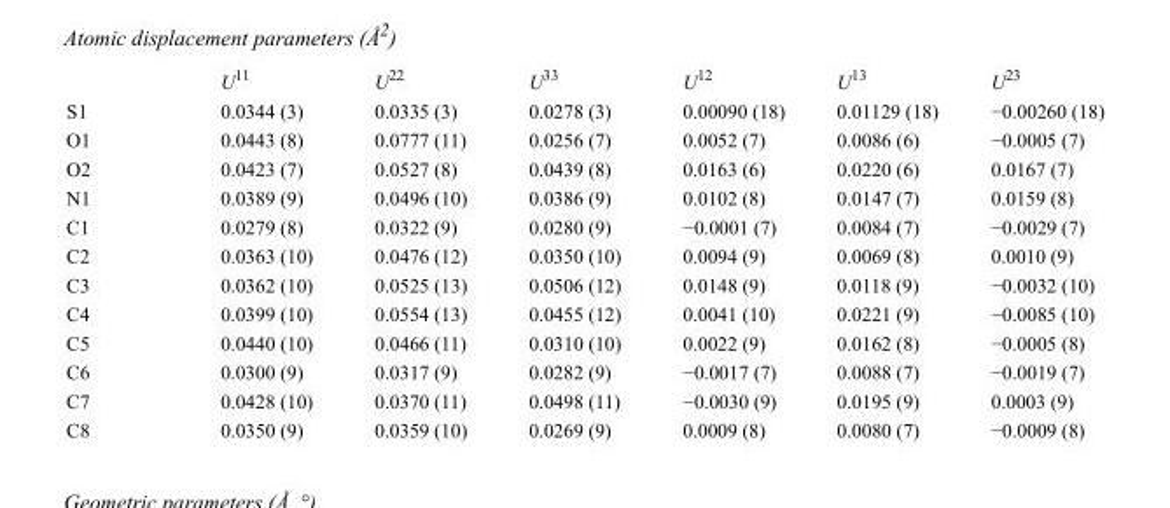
<table><thead><tr><td></td><td>U<sup>11</sup></td><td>U<sup>22</sup></td><td>U<sup>33</sup></td><td>U<sup>12</sup></td><td>U<sup>13</sup></td><td>U<sup>23</sup></td></tr></thead><tbody><tr><td>S1</td><td>0.0344 (3)</td><td>0.0335 (3)</td><td>0.0278 (3)</td><td>0.00090 (18)</td><td>0.01129 (18)</td><td>−0.00260 (18)</td></tr><tr><td>O1</td><td>0.0443 (8)</td><td>0.0777 (11)</td><td>0.0256 (7)</td><td>0.0052 (7)</td><td>0.0086 (6)</td><td>−0.0005 (7)</td></tr><tr><td>O2</td><td>0.0423 (7)</td><td>0.0527 (8)</td><td>0.0439 (8)</td><td>0.0163 (6)</td><td>0.0220 (6)</td><td>0.0167 (7)</td></tr><tr><td>N1</td><td>0.0389 (9)</td><td>0.0496 (10)</td><td>0.0386 (9)</td><td>0.0102 (8)</td><td>0.0147 (7)</td><td>0.0159 (8)</td></tr><tr><td>C1</td><td>0.0279 (8)</td><td>0.0322 (9)</td><td>0.0280 (9)</td><td>−0.0001 (7)</td><td>0.0084 (7)</td><td>−0.0029 (7)</td></tr><tr><td>C2</td><td>0.0363 (10)</td><td>0.0476 (12)</td><td>0.0350 (10)</td><td>0.0094 (9)</td><td>0.0069 (8)</td><td>0.0010 (9)</td></tr><tr><td>C3</td><td>0.0362 (10)</td><td>0.0525 (13)</td><td>0.0506 (12)</td><td>0.0148 (9)</td><td>0.0118 (9)</td><td>−0.0032 (10)</td></tr><tr><td>C4</td><td>0.0399 (10)</td><td>0.0554 (13)</td><td>0.0455 (12)</td><td>0.0041 (10)</td><td>0.0221 (9)</td><td>−0.0085 (10)</td></tr><tr><td>C5</td><td>0.0440 (10)</td><td>0.0466 (11)</td><td>0.0310 (10)</td><td>0.0022 (9)</td><td>0.0162 (8)</td><td>−0.0005 (8)</td></tr><tr><td>C6</td><td>0.0300 (9)</td><td>0.0317 (9)</td><td>0.0282 (9)</td><td>−0.0017 (7)</td><td>0.0088 (7)</td><td>−0.0019 (7)</td></tr><tr><td>C7</td><td>0.0428 (10)</td><td>0.0370 (11)</td><td>0.0498 (11)</td><td>−0.0030 (9)</td><td>0.0195 (9)</td><td>0.0003 (9)</td></tr><tr><td>C8</td><td>0.0350 (9)</td><td>0.0359 (10)</td><td>0.0269 (9)</td><td>0.0009 (8)</td><td>0.0080 (7)</td><td>−0.0009 (8)</td></tr></tbody></table>